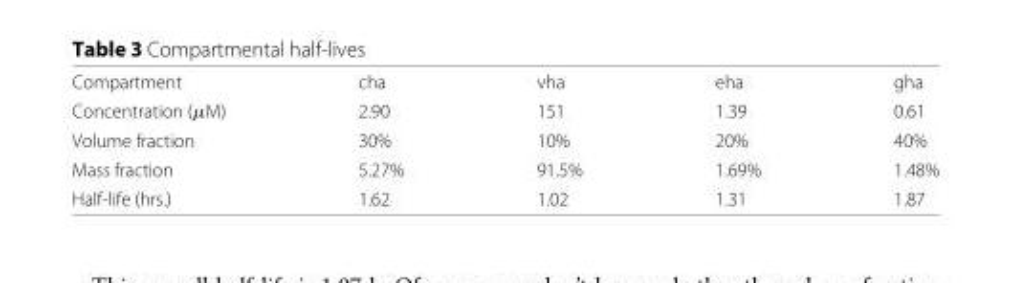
<table><tbody><tr><td>Compartment</td><td>cha</td><td>vha</td><td>eha</td><td>gha</td></tr><tr><td>Concentration (μM)</td><td>2.90</td><td>151</td><td>1.39</td><td>0.61</td></tr><tr><td>Volume fraction</td><td>30%</td><td>10%</td><td>20%</td><td>40%</td></tr><tr><td>Mass fraction</td><td>5.27%</td><td>91.5%</td><td>1.69%</td><td>1.48%</td></tr><tr><td>Half-life (hrs.)</td><td>1.62</td><td>1.02</td><td>1.31</td><td>1.87</td></tr></tbody></table>